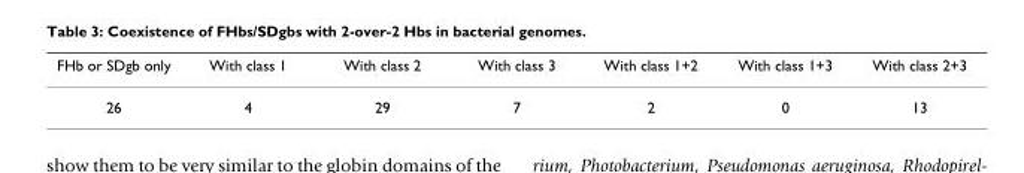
<table><thead><tr><td>FHb or SDgb only</td><td>With class 1</td><td>With class 2</td><td>With class 3</td><td>With class 1+2</td><td>With class 1+3</td><td>With class 2+3</td></tr></thead><tbody><tr><td>26</td><td>4</td><td>29</td><td>7</td><td>2</td><td>0</td><td>13</td></tr></tbody></table>